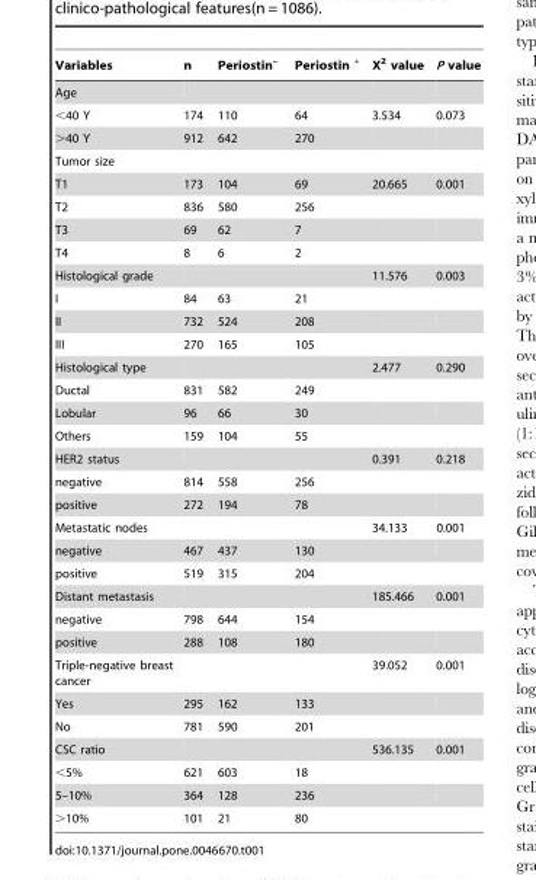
<table><thead><tr><td>Variables</td><td>n</td><td>Periostin<sup>–</sup></td><td>Periostin <sup>+</sup></td><td>X<sup>2</sup> value</td><td>P value</td></tr></thead><tbody><tr><td colspan="6">Age</td></tr><tr><td>&lt;40 Y</td><td>174</td><td>110</td><td>64</td><td>3.534</td><td>0.073</td></tr><tr><td>&gt;40 Y</td><td>912</td><td>642</td><td>270</td><td></td><td></td></tr><tr><td colspan="6">Tumor size</td></tr><tr><td>T1</td><td>173</td><td>104</td><td>69</td><td>20.665</td><td>0.001</td></tr><tr><td>T2</td><td>836</td><td>580</td><td>256</td><td></td><td></td></tr><tr><td>T3</td><td>69</td><td>62</td><td>7</td><td></td><td></td></tr><tr><td>T4</td><td>8</td><td>6</td><td>2</td><td></td><td></td></tr><tr><td>Histological grade</td><td></td><td></td><td></td><td>11.576</td><td>0.003</td></tr><tr><td>I</td><td>84</td><td>63</td><td>21</td><td></td><td></td></tr><tr><td>II</td><td>732</td><td>524</td><td>208</td><td></td><td></td></tr><tr><td>III</td><td>270</td><td>165</td><td>105</td><td></td><td></td></tr><tr><td>Histological type</td><td></td><td></td><td></td><td>2.477</td><td>0.290</td></tr><tr><td>Ductal</td><td>831</td><td>582</td><td>249</td><td></td><td></td></tr><tr><td>Lobular</td><td>96</td><td>66</td><td>30</td><td></td><td></td></tr><tr><td>Others</td><td>159</td><td>104</td><td>55</td><td></td><td></td></tr><tr><td>HER2 status</td><td></td><td></td><td></td><td>0.391</td><td>0.218</td></tr><tr><td>negative</td><td>814</td><td>558</td><td>256</td><td></td><td></td></tr><tr><td>positive</td><td>272</td><td>194</td><td>78</td><td></td><td></td></tr><tr><td>Metastatic nodes</td><td></td><td></td><td></td><td>34.133</td><td>0.001</td></tr><tr><td>negative</td><td>467</td><td>437</td><td>130</td><td></td><td></td></tr><tr><td>positive</td><td>519</td><td>315</td><td>204</td><td></td><td></td></tr><tr><td>Distant metastasis</td><td></td><td></td><td></td><td>185.466</td><td>0.001</td></tr><tr><td>negative</td><td>798</td><td>644</td><td>154</td><td></td><td></td></tr><tr><td>positive</td><td>288</td><td>108</td><td>180</td><td></td><td></td></tr><tr><td>Triple-negative breast cancer</td><td></td><td></td><td></td><td>39.052</td><td>0.001</td></tr><tr><td>Yes</td><td>295</td><td>162</td><td>133</td><td></td><td></td></tr><tr><td>No</td><td>781</td><td>590</td><td>201</td><td></td><td></td></tr><tr><td>CSC ratio</td><td></td><td></td><td></td><td>536.135</td><td>0.001</td></tr><tr><td>&lt;5%</td><td>621</td><td>603</td><td>18</td><td></td><td></td></tr><tr><td>5–10%</td><td>364</td><td>128</td><td>236</td><td></td><td></td></tr><tr><td>&gt;10%</td><td>101</td><td>21</td><td>80</td><td></td><td></td></tr></tbody></table>